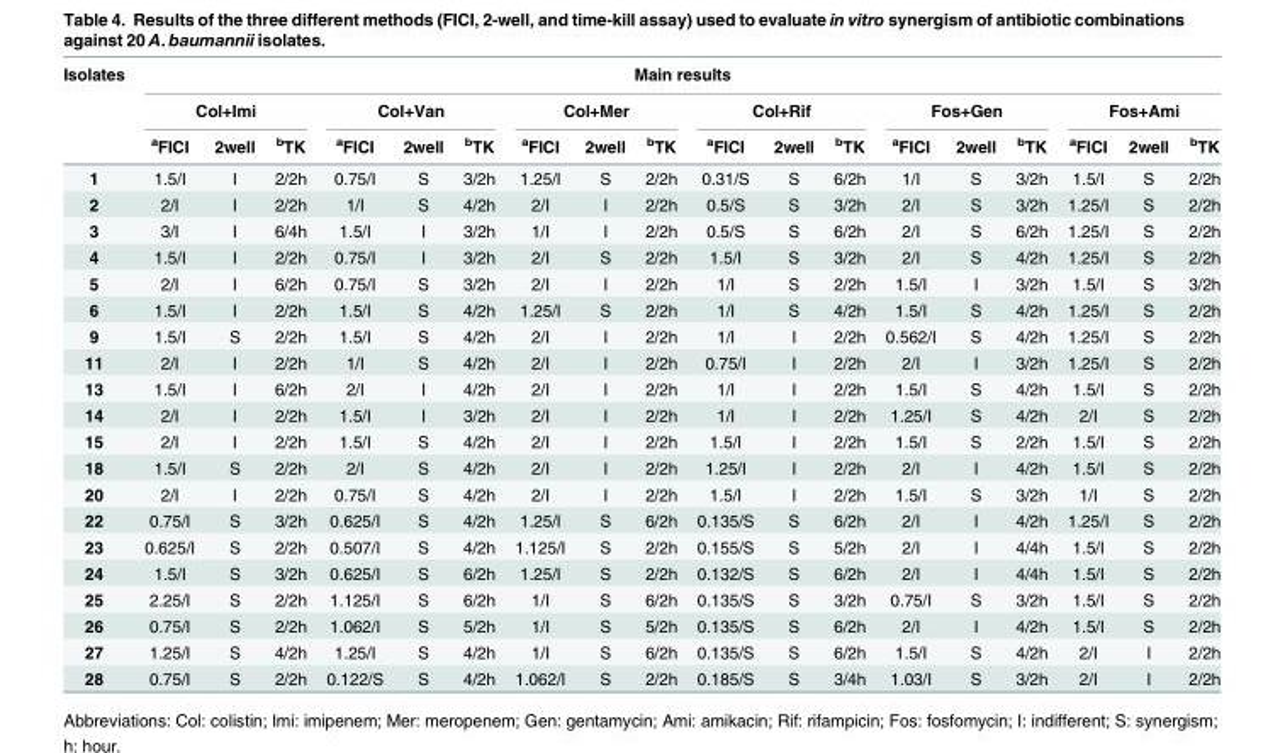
<table><thead><tr><td rowspan="3">Isolates</td><td colspan="18">Main results</td></tr><tr><td colspan="3">Col+Imi</td><td colspan="3">Col+Van</td><td colspan="3">Col+Mer</td><td colspan="3">Col+Rif</td><td colspan="3">Fos+Gen</td><td colspan="3">Fos+Ami</td></tr><tr><td><sup>a</sup>FICI</td><td>2well</td><td><sup>b</sup>TK</td><td><sup>a</sup>FICI</td><td>2well</td><td><sup>b</sup>TK</td><td><sup>a</sup>FICI</td><td>2well</td><td><sup>b</sup>TK</td><td><sup>a</sup>FICI</td><td>2well</td><td><sup>b</sup>TK</td><td><sup>a</sup>FICI</td><td>2well</td><td><sup>b</sup>TK</td><td><sup>a</sup>FICI</td><td>2well</td><td><sup>b</sup>TK</td></tr></thead><tbody><tr><td>1</td><td>1.5/I</td><td>I</td><td>2/2h</td><td>0.75/I</td><td>S</td><td>3/2h</td><td>1.25/I</td><td>S</td><td>2/2h</td><td>0.31/S</td><td>S</td><td>6/2h</td><td>1/I</td><td>S</td><td>3/2h</td><td>1.5/I</td><td>S</td><td>2/2h</td></tr><tr><td>2</td><td>2/I</td><td>I</td><td>2/2h</td><td>1/I</td><td>S</td><td>4/2h</td><td>2/I</td><td>I</td><td>2/2h</td><td>0.5/S</td><td>S</td><td>3/2h</td><td>2/I</td><td>S</td><td>3/2h</td><td>1.25/I</td><td>S</td><td>2/2h</td></tr><tr><td>3</td><td>3/I</td><td>I</td><td>6/4h</td><td>1.5/I</td><td>I</td><td>3/2h</td><td>1/I</td><td>I</td><td>2/2h</td><td>0.5/S</td><td>S</td><td>6/2h</td><td>2/I</td><td>S</td><td>6/2h</td><td>1.25/I</td><td>S</td><td>2/2h</td></tr><tr><td>4</td><td>1.5/I</td><td>I</td><td>2/2h</td><td>0.75/I</td><td>I</td><td>3/2h</td><td>2/I</td><td>S</td><td>2/2h</td><td>1.5/I</td><td>S</td><td>3/2h</td><td>2/I</td><td>S</td><td>4/2h</td><td>1.25/I</td><td>S</td><td>2/2h</td></tr><tr><td>5</td><td>2/I</td><td>I</td><td>6/2h</td><td>0.75/I</td><td>S</td><td>3/2h</td><td>2/I</td><td>I</td><td>2/2h</td><td>1/I</td><td>S</td><td>2/2h</td><td>1.5/I</td><td>I</td><td>3/2h</td><td>1.5/I</td><td>S</td><td>3/2h</td></tr><tr><td>6</td><td>1.5/I</td><td>I</td><td>2/2h</td><td>1.5/I</td><td>S</td><td>4/2h</td><td>1.25/I</td><td>S</td><td>2/2h</td><td>1/I</td><td>S</td><td>4/2h</td><td>1.5/I</td><td>S</td><td>4/2h</td><td>1.25/I</td><td>S</td><td>2/2h</td></tr><tr><td>9</td><td>1.5/I</td><td>S</td><td>2/2h</td><td>1.5/I</td><td>S</td><td>4/2h</td><td>2/I</td><td>I</td><td>2/2h</td><td>1/I</td><td>I</td><td>2/2h</td><td>0.562/I</td><td>S</td><td>4/2h</td><td>1.25/I</td><td>S</td><td>2/2h</td></tr><tr><td>11</td><td>2/I</td><td>I</td><td>2/2h</td><td>1/I</td><td>S</td><td>4/2h</td><td>2/I</td><td>I</td><td>2/2h</td><td>0.75/I</td><td>I</td><td>2/2h</td><td>2/I</td><td>I</td><td>3/2h</td><td>1.25/I</td><td>S</td><td>2/2h</td></tr><tr><td>13</td><td>1.5/I</td><td>I</td><td>6/2h</td><td>2/I</td><td>I</td><td>4/2h</td><td>2/I</td><td>I</td><td>2/2h</td><td>1/I</td><td>I</td><td>2/2h</td><td>1.5/I</td><td>S</td><td>4/2h</td><td>1.5/I</td><td>S</td><td>2/2h</td></tr><tr><td>14</td><td>2/I</td><td>I</td><td>2/2h</td><td>1.5/I</td><td>I</td><td>3/2h</td><td>2/I</td><td>I</td><td>2/2h</td><td>1/I</td><td>I</td><td>2/2h</td><td>1.25/I</td><td>S</td><td>4/2h</td><td>2/I</td><td>S</td><td>2/2h</td></tr><tr><td>15</td><td>2/I</td><td>I</td><td>2/2h</td><td>1.5/I</td><td>S</td><td>4/2h</td><td>2/I</td><td>I</td><td>2/2h</td><td>1.5/I</td><td>I</td><td>2/2h</td><td>1.5/I</td><td>S</td><td>2/2h</td><td>1.5/I</td><td>S</td><td>2/2h</td></tr><tr><td>18</td><td>1.5/I</td><td>S</td><td>2/2h</td><td>2/I</td><td>S</td><td>4/2h</td><td>2/I</td><td>I</td><td>2/2h</td><td>1.25/I</td><td>I</td><td>2/2h</td><td>2/I</td><td>I</td><td>4/2h</td><td>1.5/I</td><td>S</td><td>2/2h</td></tr><tr><td>20</td><td>2/I</td><td>I</td><td>2/2h</td><td>0.75/I</td><td>S</td><td>4/2h</td><td>2/I</td><td>I</td><td>2/2h</td><td>1.5/I</td><td>I</td><td>2/2h</td><td>1.5/I</td><td>S</td><td>3/2h</td><td>1/I</td><td>S</td><td>2/2h</td></tr><tr><td>22</td><td>0.75/I</td><td>S</td><td>3/2h</td><td>0.625/I</td><td>S</td><td>4/2h</td><td>1.25/I</td><td>S</td><td>6/2h</td><td>0.135/S</td><td>S</td><td>6/2h</td><td>2/I</td><td>I</td><td>4/2h</td><td>1.25/I</td><td>S</td><td>2/2h</td></tr><tr><td>23</td><td>0.625/I</td><td>S</td><td>2/2h</td><td>0.507/I</td><td>S</td><td>4/2h</td><td>1.125/I</td><td>S</td><td>2/2h</td><td>0.155/S</td><td>S</td><td>5/2h</td><td>2/I</td><td>I</td><td>4/4h</td><td>1.5/I</td><td>S</td><td>2/2h</td></tr><tr><td>24</td><td>1.5/I</td><td>S</td><td>3/2h</td><td>0.625/I</td><td>S</td><td>6/2h</td><td>1.25/I</td><td>S</td><td>2/2h</td><td>0.132/S</td><td>S</td><td>6/2h</td><td>2/I</td><td>I</td><td>4/4h</td><td>1.5/I</td><td>S</td><td>2/2h</td></tr><tr><td>25</td><td>2.25/I</td><td>S</td><td>2/2h</td><td>1.125/I</td><td>S</td><td>6/2h</td><td>1/I</td><td>S</td><td>6/2h</td><td>0.135/S</td><td>S</td><td>3/2h</td><td>0.75/I</td><td>S</td><td>3/2h</td><td>1.5/I</td><td>S</td><td>2/2h</td></tr><tr><td>26</td><td>0.75/I</td><td>S</td><td>2/2h</td><td>1.062/I</td><td>S</td><td>5/2h</td><td>1/I</td><td>S</td><td>5/2h</td><td>0.135/S</td><td>S</td><td>6/2h</td><td>2/I</td><td>I</td><td>4/2h</td><td>1.5/I</td><td>S</td><td>2/2h</td></tr><tr><td>27</td><td>1.25/I</td><td>S</td><td>4/2h</td><td>1.25/I</td><td>S</td><td>4/2h</td><td>1/I</td><td>S</td><td>6/2h</td><td>0.135/S</td><td>S</td><td>6/2h</td><td>1.5/I</td><td>S</td><td>4/2h</td><td>2/I</td><td>I</td><td>2/2h</td></tr><tr><td>28</td><td>0.75/I</td><td>S</td><td>2/2h</td><td>0.122/S</td><td>S</td><td>4/2h</td><td>1.062/I</td><td>S</td><td>2/2h</td><td>0.185/S</td><td>S</td><td>3/4h</td><td>1.03/I</td><td>S</td><td>3/2h</td><td>2/I</td><td>I</td><td>2/2h</td></tr></tbody></table>